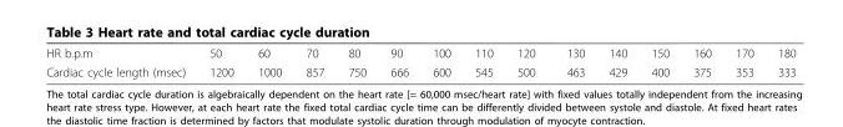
<table><tbody><tr><td>HR b.p.m</td><td>50</td><td>60</td><td>70</td><td>80</td><td>90</td><td>100</td><td>110</td><td>120</td><td>130</td><td>140</td><td>150</td><td>160</td><td>170</td><td>180</td></tr><tr><td>Cardiac cycle length (msec)</td><td>1200</td><td>1000</td><td>857</td><td>750</td><td>666</td><td>600</td><td>545</td><td>500</td><td>463</td><td>429</td><td>400</td><td>375</td><td>353</td><td>333</td></tr></tbody></table>